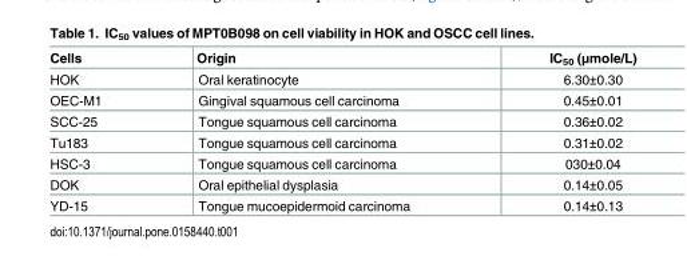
<table><thead><tr><td>Cells</td><td>Origin</td><td>IC<sub>50</sub> (μmole/L)</td></tr></thead><tbody><tr><td>HOK</td><td>Oral keratinocyte</td><td>6.30±0.30</td></tr><tr><td>OEC-M1</td><td>Gingival squamous cell carcinoma</td><td>0.45±0.01</td></tr><tr><td>SCC-25</td><td>Tongue squamous cell carcinoma</td><td>0.36±0.02</td></tr><tr><td>Tu183</td><td>Tongue squamous cell carcinoma</td><td>0.31±0.02</td></tr><tr><td>HSC-3</td><td>Tongue squamous cell carcinoma</td><td>030±0.04</td></tr><tr><td>DOK</td><td>Oral epithelial dysplasia</td><td>0.14±0.05</td></tr><tr><td>YD-15</td><td>Tongue mucoepidermoid carcinoma</td><td>0.14±0.13</td></tr></tbody></table>